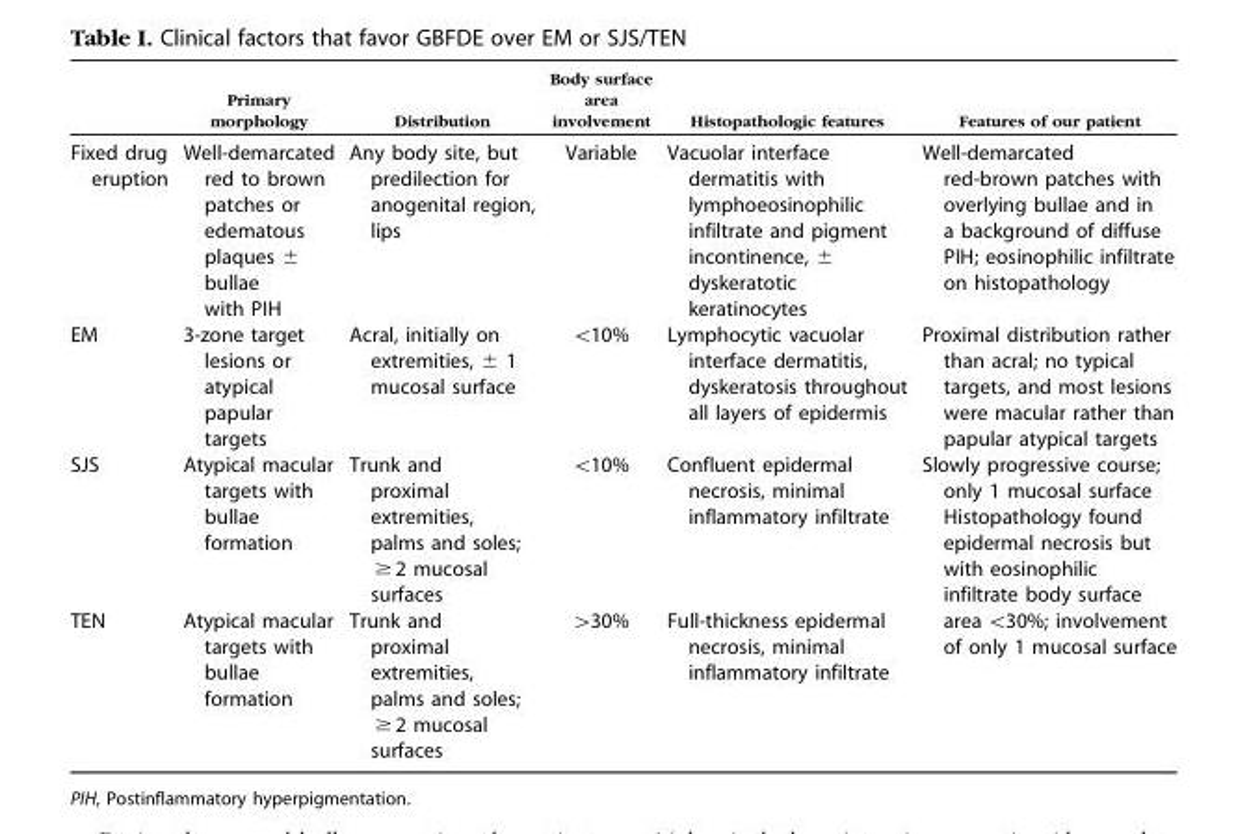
<table><thead><tr><td></td><td>Primary morphology</td><td>Distribution</td><td>Body surface area involvement</td><td>Histopathologic features</td><td>Features of our patient</td></tr></thead><tbody><tr><td>Fixed drug eruption</td><td>Well-demarcated red to brown patches or edematous plaques ± bullae with PIH</td><td>Any body site, but predilection for anogenital region, lips</td><td>Variable</td><td>Vacuolar interface dermatitis with lymphoeosinophilic infiltrate and pigment incontinence, ± dyskeratotic keratinocytes</td><td>Well-demarcated red-brown patches with overlying bullae and in a background of diffuse PIH; eosinophilic infiltrate on histopathology</td></tr><tr><td>EM</td><td>3-zone target lesions or atypical papular targets</td><td>Acral, initially on extremities, ± 1 mucosal surface</td><td>&lt;10%</td><td>Lymphocytic vacuolar interface dermatitis, dyskeratosis throughout all layers of epidermis</td><td>Proximal distribution rather than acral; no typical targets, and most lesions were macular rather than papular atypical targets</td></tr><tr><td>SJS</td><td>Atypical macular targets with bullae formation</td><td>Trunk and proximal extremities, palms and soles; ≥ 2 mucosal surfaces</td><td>&lt;10%</td><td>Confluent epidermal necrosis, minimal inflammatory infiltrate</td><td rowspan="2">Slowly progressive course; only 1 mucosal surface Histopathology found epidermal necrosis but with eosinophilic infiltrate body surface area &lt;30%; involvement of only 1 mucosal surface</td></tr><tr><td>TEN</td><td>Atypical macular targets with bullae formation</td><td>Trunk and proximal extremities, palms and soles; ≥ 2 mucosal surfaces</td><td>&gt;30%</td><td>Full-thickness epidermal necrosis, minimal inflammatory infiltrate</td></tr></tbody></table>